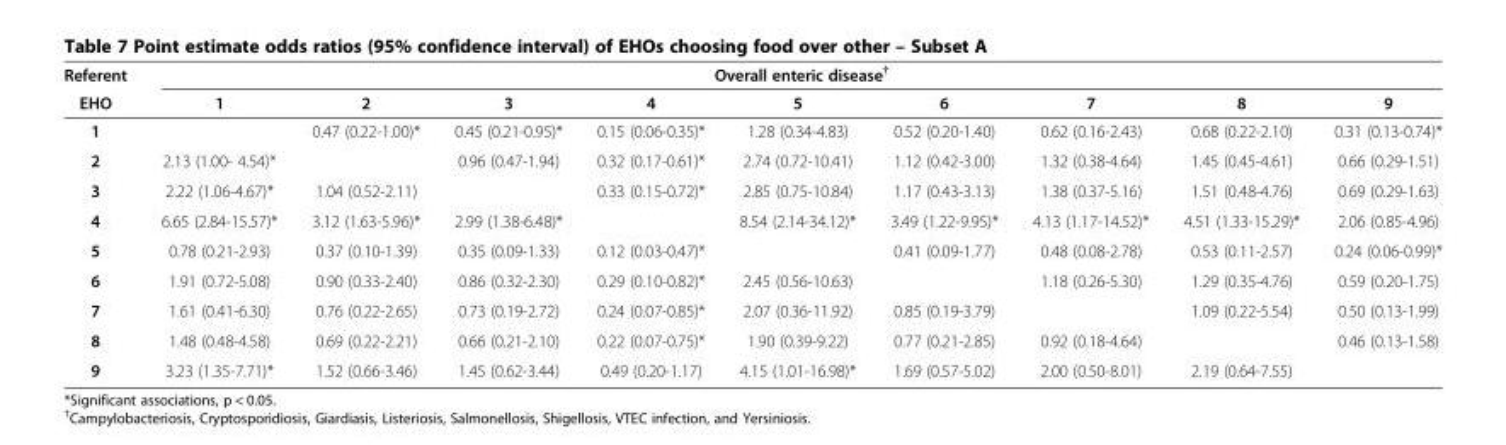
<table><thead><tr><td rowspan="2">Referent EHO</td><td colspan="9">Overall enteric disease<sup>†</sup></td></tr><tr><td>1</td><td>2</td><td>3</td><td>4</td><td>5</td><td>6</td><td>7</td><td>8</td><td>9</td></tr></thead><tbody><tr><td>1</td><td></td><td>0.47 (0.22-1.00)*</td><td>0.45 (0.21-0.95)*</td><td>0.15 (0.06-0.35)*</td><td>1.28 (0.34-4.83)</td><td>0.52 (0.20-1.40)</td><td>0.62 (0.16-2.43)</td><td>0.68 (0.22-2.10)</td><td>0.31 (0.13-0.74)*</td></tr><tr><td>2</td><td>2.13 (1.00- 4.54)*</td><td></td><td>0.96 (0.47-1.94)</td><td>0.32 (0.17-0.61)*</td><td>2.74 (0.72-10.41)</td><td>1.12 (0.42-3.00)</td><td>1.32 (0.38-4.64)</td><td>1.45 (0.45-4.61)</td><td>0.66 (0.29-1.51)</td></tr><tr><td>3</td><td>2.22 (1.06-4.67)*</td><td>1.04 (0.52-2.11)</td><td></td><td>0.33 (0.15-0.72)*</td><td>2.85 (0.75-10.84)</td><td>1.17 (0.43-3.13)</td><td>1.38 (0.37-5.16)</td><td>1.51 (0.48-4.76)</td><td>0.69 (0.29-1.63)</td></tr><tr><td>4</td><td>6.65 (2.84-15.57)*</td><td>3.12 (1.63-5.96)*</td><td>2.99 (1.38-6.48)*</td><td></td><td>8.54 (2.14-34.12)*</td><td>3.49 (1.22-9.95)*</td><td>4.13 (1.17-14.52)*</td><td>4.51 (1.33-15.29)*</td><td>2.06 (0.85-4.96)</td></tr><tr><td>5</td><td>0.78 (0.21-2.93)</td><td>0.37 (0.10-1.39)</td><td>0.35 (0.09-1.33)</td><td>0.12 (0.03-0.47)*</td><td></td><td>0.41 (0.09-1.77)</td><td>0.48 (0.08-2.78)</td><td>0.53 (0.11-2.57)</td><td>0.24 (0.06-0.99)*</td></tr><tr><td>6</td><td>1.91 (0.72-5.08)</td><td>0.90 (0.33-2.40)</td><td>0.86 (0.32-2.30)</td><td>0.29 (0.10-0.82)*</td><td>2.45 (0.56-10.63)</td><td></td><td>1.18 (0.26-5.30)</td><td>1.29 (0.35-4.76)</td><td>0.59 (0.20-1.75)</td></tr><tr><td>7</td><td>1.61 (0.41-6.30)</td><td>0.76 (0.22-2.65)</td><td>0.73 (0.19-2.72)</td><td>0.24 (0.07-0.85)*</td><td>2.07 (0.36-11.92)</td><td>0.85 (0.19-3.79)</td><td></td><td>1.09 (0.22-5.54)</td><td>0.50 (0.13-1.99)</td></tr><tr><td>8</td><td>1.48 (0.48-4.58)</td><td>0.69 (0.22-2.21)</td><td>0.66 (0.21-2.10)</td><td>0.22 (0.07-0.75)*</td><td>1.90 (0.39-9.22)</td><td>0.77 (0.21-2.85)</td><td>0.92 (0.18-4.64)</td><td></td><td>0.46 (0.13-1.58)</td></tr><tr><td>9</td><td>3.23 (1.35-7.71)*</td><td>1.52 (0.66-3.46)</td><td>1.45 (0.62-3.44)</td><td>0.49 (0.20-1.17)</td><td>4.15 (1.01-16.98)*</td><td>1.69 (0.57-5.02)</td><td>2.00 (0.50-8.01)</td><td>2.19 (0.64-7.55)</td><td></td></tr></tbody></table>